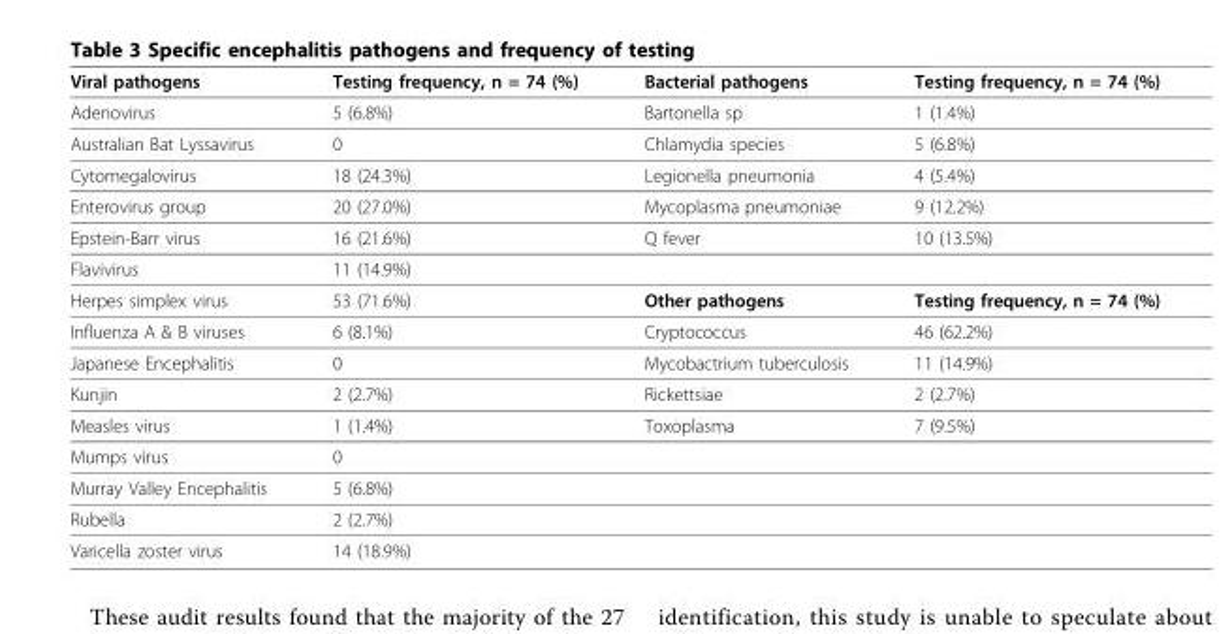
<table><thead><tr><td>Viral pathogens</td><td>Testing frequency, n = 74 (%)</td><td>Bacterial pathogens</td><td>Testing frequency, n = 74 (%)</td></tr></thead><tbody><tr><td>Adenovirus</td><td>5 (6.8%)</td><td>Bartonella sp</td><td>1 (1.4%)</td></tr><tr><td>Australian Bat Lyssavirus</td><td>0</td><td>Chlamydia species</td><td>5 (6.8%)</td></tr><tr><td>Cytomegalovirus</td><td>18 (24.3%)</td><td>Legionella pneumonia</td><td>4 (5.4%)</td></tr><tr><td>Enterovirus group</td><td>20 (27.0%)</td><td>Mycoplasma pneumoniae</td><td>9 (12.2%)</td></tr><tr><td>Epstein-Barr virus</td><td>16 (21.6%)</td><td>Q fever</td><td>10 (13.5%)</td></tr><tr><td>Flavivirus</td><td>11 (14.9%)</td><td></td><td></td></tr><tr><td>Herpes simplex virus</td><td>53 (71.6%)</td><td>Other pathogens</td><td>Testing frequency, n = 74 (%)</td></tr><tr><td>Influenza A &amp; B viruses</td><td>6 (8.1%)</td><td>Cryptococcus</td><td>46 (62.2%)</td></tr><tr><td>Japanese Encephalitis</td><td>0</td><td>Mycobactrium tuberculosis</td><td>11 (14.9%)</td></tr><tr><td>Kunjin</td><td>2 (2.7%)</td><td>Rickettsiae</td><td>2 (2.7%)</td></tr><tr><td>Measles virus</td><td>1 (1.4%)</td><td>Toxoplasma</td><td>7 (9.5%)</td></tr><tr><td>Mumps virus</td><td>0</td><td></td><td></td></tr><tr><td>Murray Valley Encephalitis</td><td>5 (6.8%)</td><td></td><td></td></tr><tr><td>Rubella</td><td>2 (2.7%)</td><td></td><td></td></tr><tr><td>Varicella zoster virus</td><td>14 (18.9%)</td><td></td><td></td></tr></tbody></table>